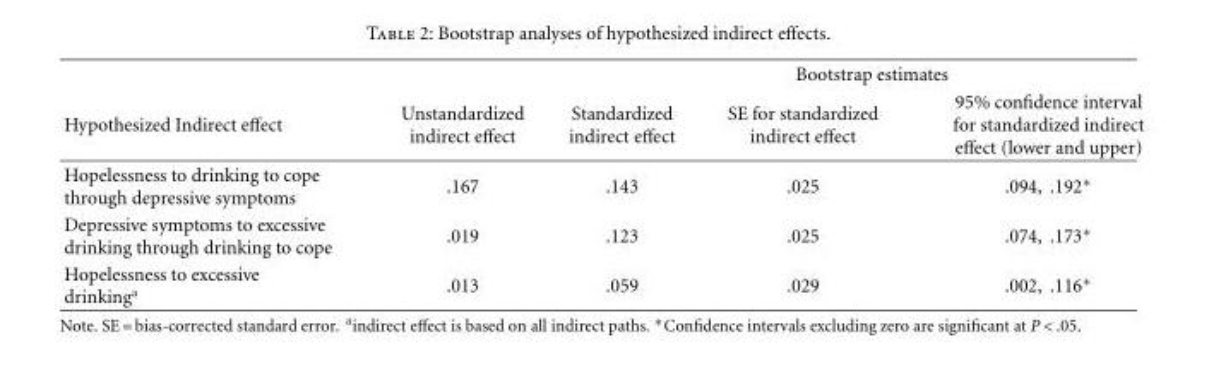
<table><thead><tr><td rowspan="2">Hypothesized Indirect effect</td><td rowspan="2">Unstandardized indirect effect</td><td rowspan="2">Standardized indirect effect</td><td colspan="2">Bootstrap estimates</td></tr><tr><td>SE for standardized indirect effect</td><td>95% confidence interval for standardized indirect effect (lower and upper)</td></tr></thead><tbody><tr><td>Hopelessness to drinking to cope through depressive symptoms</td><td>.167</td><td>.143</td><td>.025</td><td>.094, .192∗</td></tr><tr><td>Depressive symptoms to excessive drinking through drinking to cope</td><td>.019</td><td>.123</td><td>.025</td><td>.074, .173∗</td></tr><tr><td>Hopelessness to excessive drinking<sup>a</sup></td><td>.013</td><td>.059</td><td>.029</td><td>.002, .116∗</td></tr></tbody></table>